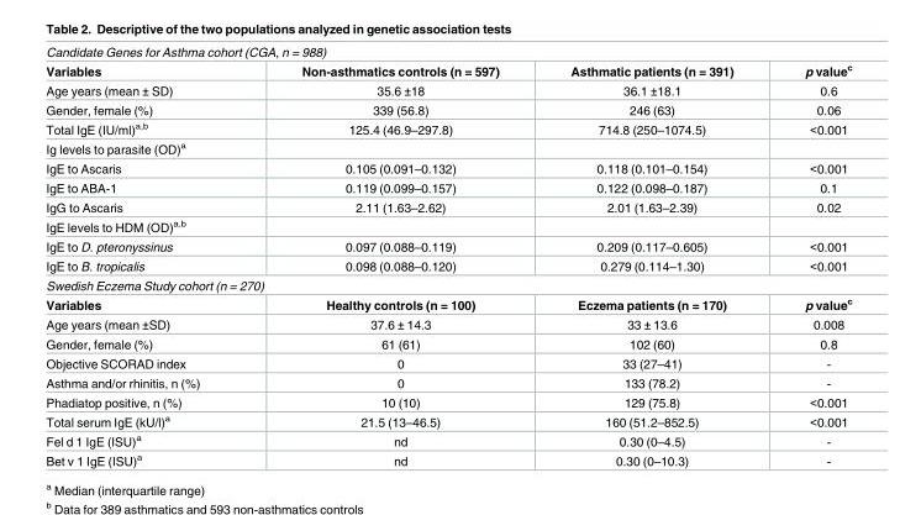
<table><tbody><tr><td colspan="4">Candidate Genes for Asthma cohort (CGA, n = 988)</td></tr><tr><td>Variables</td><td>Non-asthmatics controls (n = 597)</td><td>Asthmatic patients (n = 391)</td><td>p value<sup>c</sup></td></tr><tr><td>Age years (mean ± SD)</td><td>35.6 ±18</td><td>36.1 ±18.1</td><td>0.6</td></tr><tr><td>Gender, female (%)</td><td>339 (56.8)</td><td>246 (63)</td><td>0.06</td></tr><tr><td>Total IgE (IU/ml)<sup>a,b</sup></td><td>125.4 (46.9–297.8)</td><td>714.8 (250–1074.5)</td><td>&lt;0.001</td></tr><tr><td colspan="4">Ig levels to parasite (OD)<sup>a</sup></td></tr><tr><td>IgE to Ascaris</td><td>0.105 (0.091–0.132)</td><td>0.118 (0.101–0.154)</td><td>&lt;0.001</td></tr><tr><td>IgE to ABA-1</td><td>0.119 (0.099–0.157)</td><td>0.122 (0.098–0.187)</td><td>0.1</td></tr><tr><td>IgG to Ascaris</td><td>2.11 (1.63–2.62)</td><td>2.01 (1.63–2.39)</td><td>0.02</td></tr><tr><td colspan="4">IgE levels to HDM (OD)<sup>a,b</sup></td></tr><tr><td>IgE to D. pteronyssinus</td><td>0.097 (0.088–0.119)</td><td>0.209 (0.117–0.605)</td><td>&lt;0.001</td></tr><tr><td>IgE to B. tropicalis</td><td>0.098 (0.088–0.120)</td><td>0.279 (0.114–1.30)</td><td>&lt;0.001</td></tr><tr><td colspan="4">Swedish Eczema Study cohort (n = 270)</td></tr><tr><td>Variables</td><td>Healthy controls (n = 100)</td><td>Eczema patients (n = 170)</td><td>p value<sup>c</sup></td></tr><tr><td>Age years (mean ±SD)</td><td>37.6 ± 14.3</td><td>33 ± 13.6</td><td>0.008</td></tr><tr><td>Gender, female (%)</td><td>61 (61)</td><td>102 (60)</td><td>0.8</td></tr><tr><td>Objective SCORAD index</td><td>0</td><td>33 (27–41)</td><td>-</td></tr><tr><td>Asthma and/or rhinitis, n (%)</td><td>0</td><td>133 (78.2)</td><td>-</td></tr><tr><td>Phadiatop positive, n (%)</td><td>10 (10)</td><td>129 (75.8)</td><td>&lt;0.001</td></tr><tr><td>Total serum IgE (kU/l)<sup>a</sup></td><td>21.5 (13–46.5)</td><td>160 (51.2–852.5)</td><td>&lt;0.001</td></tr><tr><td>Fel d 1 IgE (ISU)<sup>a</sup></td><td>nd</td><td>0.30 (0–4.5)</td><td>-</td></tr><tr><td>Bet v 1 IgE (ISU)<sup>a</sup></td><td>nd</td><td>0.30 (0–10.3)</td><td>-</td></tr></tbody></table>